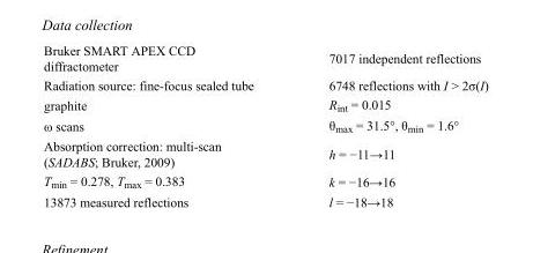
<table><tbody><tr><td>Bruker SMART APEX CCD diffractometer</td><td>7017 independent reflections</td></tr><tr><td>Radiation source: fine-focus sealed tube</td><td>6748 reflections with I &gt; 2σ(I)</td></tr><tr><td>graphite</td><td>R<sub>int</sub> = 0.015</td></tr><tr><td>ω scans</td><td>θ<sub>max</sub> = 31.5°, θ<sub>min</sub> = 1.6°</td></tr><tr><td>Absorption correction: multi-scan (SADABS; Bruker, 2009)</td><td>h = −11→11</td></tr><tr><td>T<sub>min</sub> = 0.278, T<sub>max</sub> = 0.383</td><td>k = −16→16</td></tr><tr><td>13873 measured reflections</td><td>l = −18→18</td></tr></tbody></table>